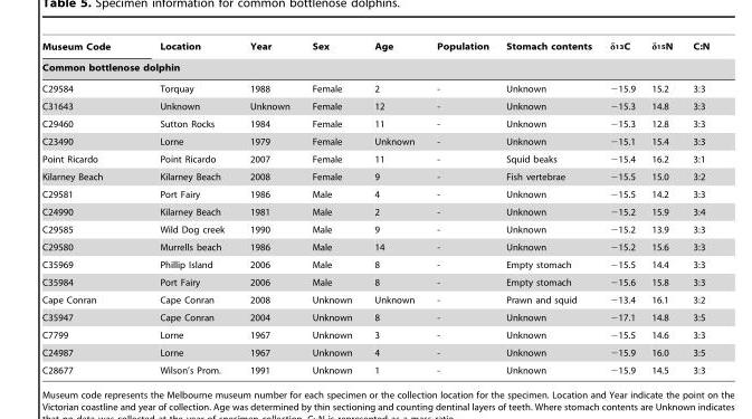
<table><thead><tr><td>Museum Code</td><td>Location</td><td>Year</td><td>Sex</td><td>Age</td><td>Population</td><td>Stomach contents</td><td>δ<sup>13</sup>C</td><td>δ<sup>15</sup>N</td><td>C:N</td></tr><tr><td colspan="10">Common bottlenose dolphin</td></tr></thead><tbody><tr><td>C29584</td><td>Torquay</td><td>1988</td><td>Female</td><td>2</td><td>-</td><td>Unknown</td><td>−15.9</td><td>15.2</td><td>3:3</td></tr><tr><td>C31643</td><td>Unknown</td><td>Unknown</td><td>Female</td><td>12</td><td>-</td><td>Unknown</td><td>−15.3</td><td>14.8</td><td>3:3</td></tr><tr><td>C29460</td><td>Sutton Rocks</td><td>1984</td><td>Female</td><td>11</td><td>-</td><td>Unknown</td><td>−15.3</td><td>12.8</td><td>3:3</td></tr><tr><td>C23490</td><td>Lorne</td><td>1979</td><td>Female</td><td>Unknown</td><td>-</td><td>Unknown</td><td>−15.1</td><td>15.4</td><td>3:3</td></tr><tr><td>Point Ricardo</td><td>Point Ricardo</td><td>2007</td><td>Female</td><td>11</td><td>-</td><td>Squid beaks</td><td>−15.4</td><td>16.2</td><td>3:1</td></tr><tr><td>Kilarney Beach</td><td>Kilarney Beach</td><td>2008</td><td>Female</td><td>9</td><td>-</td><td>Fish vertebrae</td><td>−15.5</td><td>15.0</td><td>3:2</td></tr><tr><td>C29581</td><td>Port Fairy</td><td>1986</td><td>Male</td><td>4</td><td>-</td><td>Unknown</td><td>−15.5</td><td>14.2</td><td>3:3</td></tr><tr><td>C24990</td><td>Kilarney Beach</td><td>1981</td><td>Male</td><td>2</td><td>-</td><td>Unknown</td><td>−15.2</td><td>15.9</td><td>3:4</td></tr><tr><td>C29585</td><td>Wild Dog creek</td><td>1990</td><td>Male</td><td>9</td><td>-</td><td>Unknown</td><td>−15.2</td><td>13.9</td><td>3:3</td></tr><tr><td>C29580</td><td>Murrells beach</td><td>1986</td><td>Male</td><td>14</td><td>-</td><td>Unknown</td><td>−15.2</td><td>15.6</td><td>3:3</td></tr><tr><td>C35969</td><td>Phillip Island</td><td>2006</td><td>Male</td><td>8</td><td>-</td><td>Empty stomach</td><td>−15.5</td><td>14.4</td><td>3:3</td></tr><tr><td>C35984</td><td>Port Fairy</td><td>2006</td><td>Male</td><td>8</td><td>-</td><td>Empty stomach</td><td>−15.6</td><td>15.8</td><td>3:3</td></tr><tr><td>Cape Conran</td><td>Cape Conran</td><td>2008</td><td>Unknown</td><td>Unknown</td><td>-</td><td>Prawn and squid</td><td>−13.4</td><td>16.1</td><td>3:2</td></tr><tr><td>C35947</td><td>Cape Conran</td><td>2004</td><td>Unknown</td><td>8</td><td>-</td><td>Unknown</td><td>−17.1</td><td>14.8</td><td>3:5</td></tr><tr><td>C7799</td><td>Lorne</td><td>1967</td><td>Unknown</td><td>3</td><td>-</td><td>Unknown</td><td>−15.5</td><td>14.6</td><td>3:3</td></tr><tr><td>C24987</td><td>Lorne</td><td>1967</td><td>Unknown</td><td>4</td><td>-</td><td>Unknown</td><td>−15.9</td><td>16.0</td><td>3:5</td></tr><tr><td>C28677</td><td>Wilson’s Prom.</td><td>1991</td><td>Unknown</td><td>1</td><td>-</td><td>Unknown</td><td>−15.9</td><td>14.5</td><td>3:3</td></tr></tbody></table>